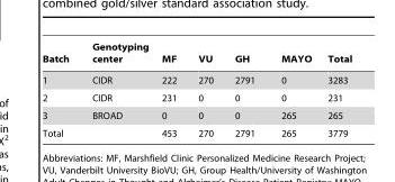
<table><thead><tr><td>Batch</td><td>Genotyping center</td><td>MF</td><td>VU</td><td>GH</td><td>MAYO</td><td>Total</td></tr></thead><tbody><tr><td>1</td><td>CIDR</td><td>222</td><td>270</td><td>2791</td><td>0</td><td>3283</td></tr><tr><td>2</td><td>CIDR</td><td>231</td><td>0</td><td>0</td><td>0</td><td>231</td></tr><tr><td>3</td><td>BROAD</td><td>0</td><td>0</td><td>0</td><td>265</td><td>265</td></tr><tr><td colspan="2">Total</td><td>453</td><td>270</td><td>2791</td><td>265</td><td>3779</td></tr></tbody></table>